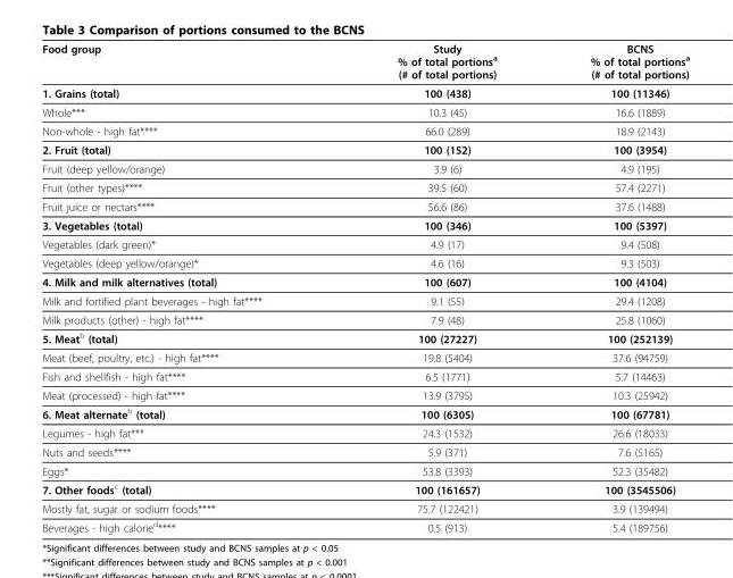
<table><thead><tr><td>Food group</td><td>Study % of total portions<sup>a</sup> (# of total portions)</td><td>BCNS % of total portions<sup>a</sup> (# of total portions)</td></tr></thead><tbody><tr><td>1. Grains (total)</td><td>100 (438)</td><td>100 (11346)</td></tr><tr><td>Whole***</td><td>10.3 (45)</td><td>16.6 (1889)</td></tr><tr><td>Non-whole - high fat****</td><td>66.0 (289)</td><td>18.9 (2143)</td></tr><tr><td>2. Fruit (total)</td><td>100 (152)</td><td>100 (3954)</td></tr><tr><td>Fruit (deep yellow/orange)</td><td>3.9 (6)</td><td>4.9 (195)</td></tr><tr><td>Fruit (other types)****</td><td>39.5 (60)</td><td>57.4 (2271)</td></tr><tr><td>Fruit juice or nectars****</td><td>56.6 (86)</td><td>37.6 (1488)</td></tr><tr><td>3. Vegetables (total)</td><td>100 (346)</td><td>100 (5397)</td></tr><tr><td>Vegetables (dark green)*</td><td>4.9 (17)</td><td>9.4 (508)</td></tr><tr><td>Vegetables (deep yellow/orange)*</td><td>4.6 (16)</td><td>9.3 (503)</td></tr><tr><td>4. Milk and milk alternatives (total)</td><td>100 (607)</td><td>100 (4104)</td></tr><tr><td>Milk and fortified plant beverages - high fat****</td><td>9.1 (55)</td><td>29.4 (1208)</td></tr><tr><td>Milk products (other) - high fat****</td><td>7.9 (48)</td><td>25.8 (1060)</td></tr><tr><td>5. Meat<sup>b</sup> (total)</td><td>100 (27227)</td><td>100 (252139)</td></tr><tr><td>Meat (beef, poultry, etc.) - high fat****</td><td>19.8 (5404)</td><td>37.6 (94759)</td></tr><tr><td>Fish and shellfish - high fat****</td><td>6.5 (1771)</td><td>5.7 (14463)</td></tr><tr><td>Meat (processed) - high fat****</td><td>13.9 (3795)</td><td>10.3 (25942)</td></tr><tr><td>6. Meat alternate<sup>b</sup> (total)</td><td>100 (6305)</td><td>100 (67781)</td></tr><tr><td>Legumes - high fat***</td><td>24.3 (1532)</td><td>26.6 (18033)</td></tr><tr><td>Nuts and seeds****</td><td>5.9 (371)</td><td>7.6 (5165)</td></tr><tr><td>Eggs*</td><td>53.8 (3393)</td><td>52.3 (35482)</td></tr><tr><td>7. Other foods<sup>c</sup> (total)</td><td>100 (161657)</td><td>100 (3545506)</td></tr><tr><td>Mostly fat, sugar or sodium foods****</td><td>75.7 (122421)</td><td>3.9 (139494)</td></tr><tr><td>Beverages - high calorie<sup>d</sup>****</td><td>0.5 (913)</td><td>5.4 (189756)</td></tr></tbody></table>